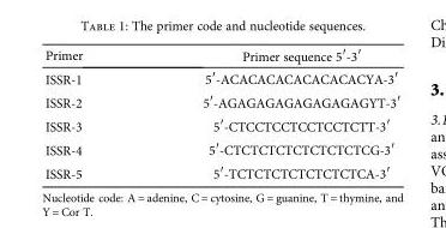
<table><thead><tr><td>Primer</td><td>Primer sequence 5′-3′</td></tr></thead><tbody><tr><td>ISSR-1</td><td>5′-ACACACACACACACACYA-3′</td></tr><tr><td>ISSR-2</td><td>5′-AGAGAGAGAGAGAGAGYT-3′</td></tr><tr><td>ISSR-3</td><td>5′-CTCCTCCTCCTCCTCTT-3′</td></tr><tr><td>ISSR-4</td><td>5′-CTCTCTCTCTCTCTCTCG-3′</td></tr><tr><td>ISSR-5</td><td>5′-TCTCTCTCTCTCTCTCA-3′</td></tr></tbody></table>